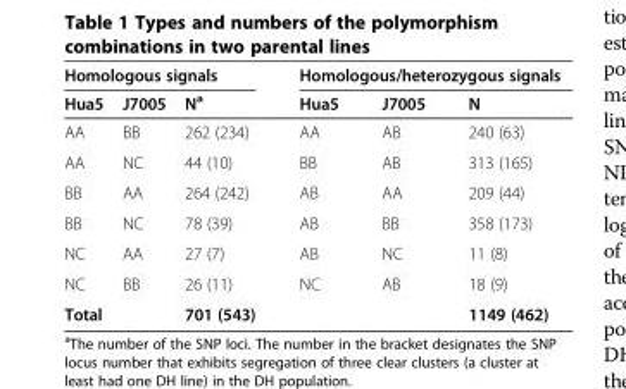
<table><thead><tr><td colspan="3">Homologous signals</td><td colspan="3">Homologous/heterozygous signals</td></tr><tr><td>Hua5</td><td>J7005</td><td>N<sup>a</sup></td><td>Hua5</td><td>J7005</td><td>N</td></tr></thead><tbody><tr><td>AA</td><td>BB</td><td>262 (234)</td><td>AA</td><td>AB</td><td>240 (63)</td></tr><tr><td>AA</td><td>NC</td><td>44 (10)</td><td>BB</td><td>AB</td><td>313 (165)</td></tr><tr><td>BB</td><td>AA</td><td>264 (242)</td><td>AB</td><td>AA</td><td>209 (44)</td></tr><tr><td>BB</td><td>NC</td><td>78 (39)</td><td>AB</td><td>BB</td><td>358 (173)</td></tr><tr><td>NC</td><td>AA</td><td>27 (7)</td><td>AB</td><td>NC</td><td>11 (8)</td></tr><tr><td>NC</td><td>BB</td><td>26 (11)</td><td>NC</td><td>AB</td><td>18 (9)</td></tr><tr><td>Total</td><td></td><td>701 (543)</td><td></td><td></td><td>1149 (462)</td></tr></tbody></table>